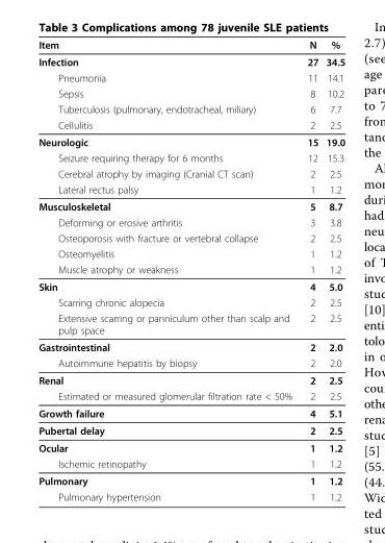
<table><thead><tr><td>Item</td><td>N</td><td>%</td></tr></thead><tbody><tr><td>Infection</td><td>27</td><td>34.5</td></tr><tr><td>Pneumonia</td><td>11</td><td>14.1</td></tr><tr><td>Sepsis</td><td>8</td><td>10.2</td></tr><tr><td>Tuberculosis (pulmonary, endotracheal, miliary)</td><td>6</td><td>7.7</td></tr><tr><td>Cellulitis</td><td>2</td><td>2.5</td></tr><tr><td>Neurologic</td><td>15</td><td>19.0</td></tr><tr><td>Seizure requiring therapy for 6 months</td><td>12</td><td>15.3</td></tr><tr><td>Cerebral atrophy by imaging (Cranial CT scan)</td><td>2</td><td>2.5</td></tr><tr><td>Lateral rectus palsy</td><td>1</td><td>1.2</td></tr><tr><td>Musculoskeletal</td><td>5</td><td>8.7</td></tr><tr><td>Deforming or erosive arthritis</td><td>3</td><td>3.8</td></tr><tr><td>Osteoporosis with fracture or vertebral collapse</td><td>2</td><td>2.5</td></tr><tr><td>Osteomyelitis</td><td>1</td><td>1.2</td></tr><tr><td>Muscle atrophy or weakness</td><td>1</td><td>1.2</td></tr><tr><td>Skin</td><td>4</td><td>5.0</td></tr><tr><td>Scarring chronic alopecia</td><td>2</td><td>2.5</td></tr><tr><td>Extensive scarring or panniculum other than scalp and pulp space</td><td>2</td><td>2.5</td></tr><tr><td>Gastrointestinal</td><td>2</td><td>2.0</td></tr><tr><td>Autoimmune hepatitis by biopsy</td><td>2</td><td>2.0</td></tr><tr><td>Renal</td><td>2</td><td>2.5</td></tr><tr><td>Estimated or measured glomerular filtration rate &lt; 50%</td><td>2</td><td>2.5</td></tr><tr><td>Growth failure</td><td>4</td><td>5.1</td></tr><tr><td>Pubertal delay</td><td>2</td><td>2.5</td></tr><tr><td>Ocular</td><td>1</td><td>1.2</td></tr><tr><td>Ischemic retinopathy</td><td>1</td><td>1.2</td></tr><tr><td>Pulmonary</td><td>1</td><td>1.2</td></tr><tr><td>Pulmonary hypertension</td><td>1</td><td>1.2</td></tr></tbody></table>